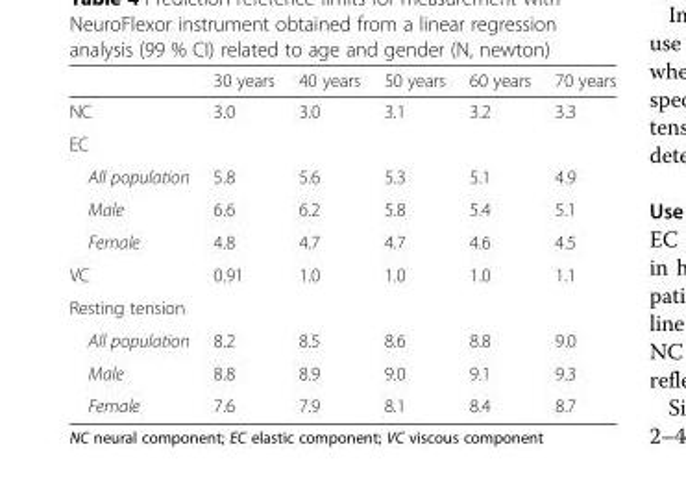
<table><thead><tr><td></td><td>30 years</td><td>40 years</td><td>50 years</td><td>60 years</td><td>70 years</td></tr></thead><tbody><tr><td>NC</td><td>3.0</td><td>3.0</td><td>3.1</td><td>3.2</td><td>3.3</td></tr><tr><td colspan="6">EC</td></tr><tr><td>All population</td><td>5.8</td><td>5.6</td><td>5.3</td><td>5.1</td><td>4.9</td></tr><tr><td>Male</td><td>6.6</td><td>6.2</td><td>5.8</td><td>5.4</td><td>5.1</td></tr><tr><td>Female</td><td>4.8</td><td>4.7</td><td>4.7</td><td>4.6</td><td>4.5</td></tr><tr><td>VC</td><td>0.91</td><td>1.0</td><td>1.0</td><td>1.0</td><td>1.1</td></tr><tr><td colspan="6">Resting tension</td></tr><tr><td>All population</td><td>8.2</td><td>8.5</td><td>8.6</td><td>8.8</td><td>9.0</td></tr><tr><td>Male</td><td>8.8</td><td>8.9</td><td>9.0</td><td>9.1</td><td>9.3</td></tr><tr><td>Female</td><td>7.6</td><td>7.9</td><td>8.1</td><td>8.4</td><td>8.7</td></tr></tbody></table>